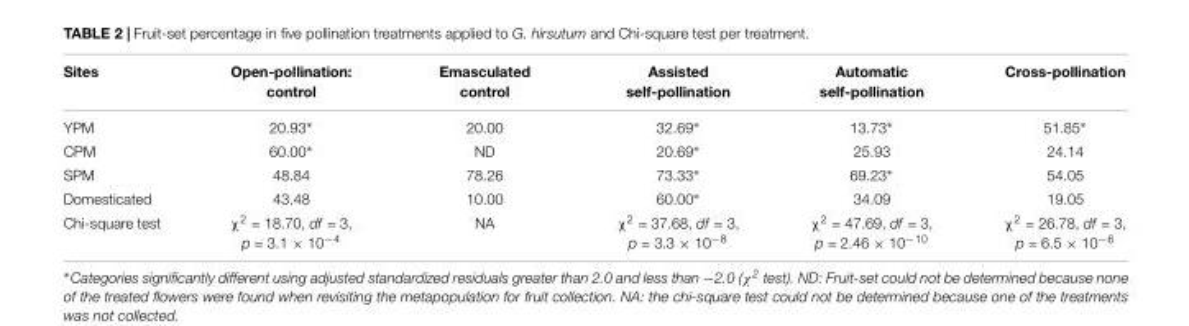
<table><thead><tr><td>Sites</td><td>Open-pollination: control</td><td>Emasculated control</td><td>Assisted self-pollination</td><td>Automatic self-pollination</td><td>Cross-pollination</td></tr></thead><tbody><tr><td>YPM</td><td>20.93∗</td><td>20.00</td><td>32.69∗</td><td>13.73∗</td><td>51.85∗</td></tr><tr><td>CPM</td><td>60.00∗</td><td>ND</td><td>20.69∗</td><td>25.93</td><td>24.14</td></tr><tr><td>SPM</td><td>48.84</td><td>78.26</td><td>73.33∗</td><td>69.23∗</td><td>54.05</td></tr><tr><td>Domesticated</td><td>43.48</td><td>10.00</td><td>60.00∗</td><td>34.09</td><td>19.05</td></tr><tr><td>Chi-square test</td><td>χ<sup>2</sup> = 18.70, df = 3, p = 3.1 × 10<sup>−4</sup></td><td>NA</td><td>χ<sup>2</sup> = 37.68, df = 3, p = 3.3 × 10<sup>−8</sup></td><td>χ<sup>2</sup> = 47.69, df = 3, p = 2.46 × 10<sup>−10</sup></td><td>χ<sup>2</sup> = 26.78, df = 3, p = 6.5 × 10<sup>−6</sup></td></tr></tbody></table>